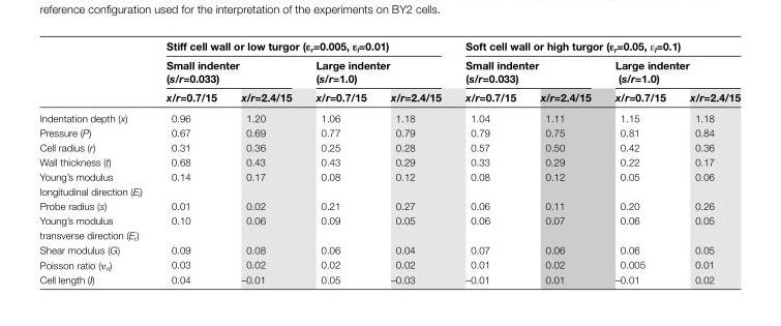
<table><thead><tr><td rowspan="3"></td><td colspan="4">Stiff cell wall or low turgor (ε<sub>r</sub>=0.005, ε<sub>l</sub>=0.01)</td><td colspan="4">Soft cell wall or high turgor (ε<sub>r</sub>=0.05, ε<sub>l</sub>=0.1)</td></tr><tr><td colspan="2">Small indenter (s/r=0.033)</td><td colspan="2">Large indenter (s/r=1.0)</td><td colspan="2">Small indenter (s/r=0.033)</td><td colspan="2">Large indenter (s/r=1.0)</td></tr><tr><td>x/r=0.7/15</td><td>x/r=2.4/15</td><td>x/r=0.7/15</td><td>x/r=2.4/15</td><td>x/r=0.7/15</td><td>x/r=2.4/15</td><td>x/r=0.7/15</td><td>x/r=2.4/15</td></tr></thead><tbody><tr><td>Indentation depth (x)</td><td>0.96</td><td>1.20</td><td>1.06</td><td>1.18</td><td>1.04</td><td>1.11</td><td>1.15</td><td>1.18</td></tr><tr><td>Pressure (P)</td><td>0.67</td><td>0.69</td><td>0.77</td><td>0.79</td><td>0.79</td><td>0.75</td><td>0.81</td><td>0.84</td></tr><tr><td>Cell radius (r)</td><td>0.31</td><td>0.36</td><td>0.25</td><td>0.28</td><td>0.57</td><td>0.50</td><td>0.42</td><td>0.36</td></tr><tr><td>Wall thickness (t)</td><td>0.68</td><td>0.43</td><td>0.43</td><td>0.29</td><td>0.33</td><td>0.29</td><td>0.22</td><td>0.17</td></tr><tr><td>Young’s modulus longitudinal direction (E<sub>l</sub>)</td><td>0.14</td><td>0.17</td><td>0.08</td><td>0.12</td><td>0.08</td><td>0.12</td><td>0.05</td><td>0.06</td></tr><tr><td>Probe radius (s)</td><td>0.01</td><td>0.02</td><td>0.21</td><td>0.27</td><td>0.06</td><td>0.11</td><td>0.20</td><td>0.26</td></tr><tr><td>Young’s modulus transverse direction (E<sub>r</sub>)</td><td>0.10</td><td>0.06</td><td>0.09</td><td>0.05</td><td>0.06</td><td>0.07</td><td>0.06</td><td>0.05</td></tr><tr><td>Shear modulus (G)</td><td>0.09</td><td>0.08</td><td>0.06</td><td>0.04</td><td>0.07</td><td>0.06</td><td>0.06</td><td>0.05</td></tr><tr><td>Poisson ratio (υ<sub>rl</sub>)</td><td>0.03</td><td>0.02</td><td>0.02</td><td>0.02</td><td>0.01</td><td>0.02</td><td>0.005</td><td>0.01</td></tr><tr><td>Cell length (l)</td><td>0.04</td><td>–0.01</td><td>0.05</td><td>–0.03</td><td>–0.01</td><td>0.01</td><td>–0.01</td><td>0.02</td></tr></tbody></table>